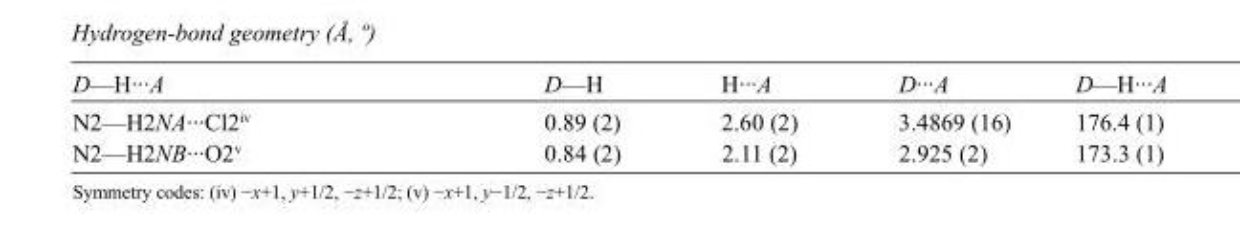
<table><tbody><tr><td>D—H···A</td><td>D—H</td><td>H···A</td><td>D···A</td><td>D—H···A</td></tr><tr><td>N2—H2NA···Cl2<sup>iv</sup></td><td>0.89 (2)</td><td>2.60 (2)</td><td>3.4869 (16)</td><td>176.4 (1)</td></tr><tr><td>N2—H2NB···O2<sup>v</sup></td><td>0.84 (2)</td><td>2.11 (2)</td><td>2.925 (2)</td><td>173.3 (1)</td></tr></tbody></table>